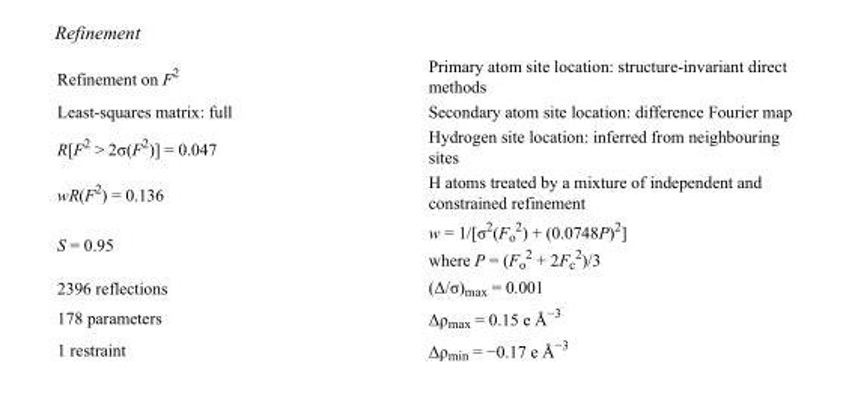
<table><tbody><tr><td>Refinement on F<sup>2</sup></td><td>Primary atom site location: structure-invariant direct methods</td></tr><tr><td>Least-squares matrix: full</td><td>Secondary atom site location: difference Fourier map</td></tr><tr><td>R[F<sup>2</sup> &gt; 2σ(F<sup>2</sup>)] = 0.047</td><td>Hydrogen site location: inferred from neighbouring sites</td></tr><tr><td>wR(F<sup>2</sup>) = 0.136</td><td>H atoms treated by a mixture of independent and constrained refinement</td></tr><tr><td>S = 0.95</td><td>w = 1/[σ<sup>2</sup>(F<sub>o</sub> <sup>2</sup>) + (0.0748P)<sup>2</sup>] where P = (F<sub>o</sub> <sup>2</sup> + 2F<sub>c</sub> <sup>2</sup>)/3</td></tr><tr><td>2396 reflections</td><td>(Δ/σ)<sub>max</sub> = 0.001</td></tr><tr><td>178 parameters</td><td>Δρ<sub>max</sub> = 0.15 e Å<sup>−3</sup></td></tr><tr><td>1 restraint</td><td>Δρ<sub>min</sub> = −0.17 e Å<sup>−3</sup></td></tr></tbody></table>